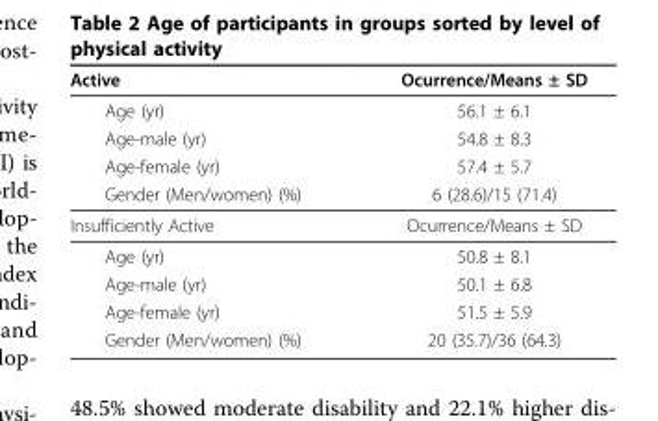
<table><thead><tr><td>Active</td><td>Ocurrence/Means ± SD</td></tr></thead><tbody><tr><td>Age (yr)</td><td>56.1 ± 6.1</td></tr><tr><td>Age-male (yr)</td><td>54.8 ± 8.3</td></tr><tr><td>Age-female (yr)</td><td>57.4 ± 5.7</td></tr><tr><td>Gender (Men/women) (%)</td><td>6 (28.6)/15 (71.4)</td></tr><tr><td>Insufficiently Active</td><td>Ocurrence/Means ± SD</td></tr><tr><td>Age (yr)</td><td>50.8 ± 8.1</td></tr><tr><td>Age-male (yr)</td><td>50.1 ± 6.8</td></tr><tr><td>Age-female (yr)</td><td>51.5 ± 5.9</td></tr><tr><td>Gender (Men/women) (%)</td><td>20 (35.7)/36 (64.3)</td></tr></tbody></table>